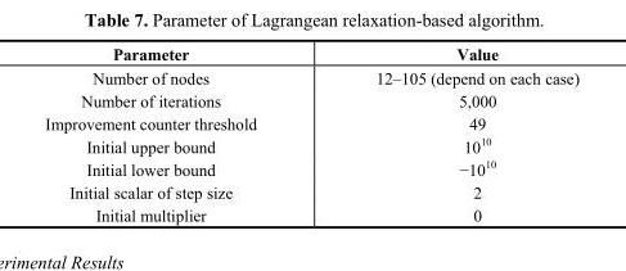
<table><thead><tr><td>Parameter</td><td>Value</td></tr></thead><tbody><tr><td>Number of nodes</td><td>12–105 (depend on each case)</td></tr><tr><td>Number of iterations</td><td>5,000</td></tr><tr><td>Improvement counter threshold</td><td>49</td></tr><tr><td>Initial upper bound</td><td>10<sup>10</sup></td></tr><tr><td>Initial lower bound</td><td>−10<sup>10</sup></td></tr><tr><td>Initial scalar of step size</td><td>2</td></tr><tr><td>Initial multiplier</td><td>0</td></tr></tbody></table>